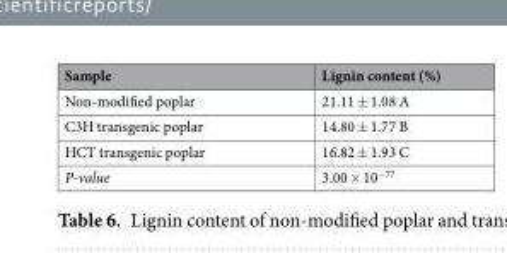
<table><thead><tr><td>Sample</td><td>Lignin content (%)</td></tr></thead><tbody><tr><td>Non-modified poplar</td><td>21.11 ± 1.08 A</td></tr><tr><td>C3H transgenic poplar</td><td>14.80 ± 1.77 B</td></tr><tr><td>HCT transgenic poplar</td><td>16.82 ± 1.93 C</td></tr><tr><td>P-value</td><td>3.00 × 10<sup>−77</sup></td></tr></tbody></table>